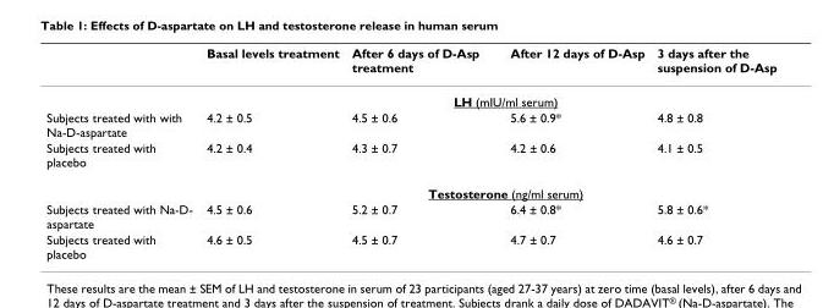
<table><thead><tr><td></td><td>Basal levels treatment</td><td>After 6 days of D-Asp treatment</td><td>After 12 days of D-Asp</td><td>3 days after the suspension of D-Asp</td></tr></thead><tbody><tr><td></td><td colspan="4">LH (mIU/ml serum)</td></tr><tr><td>Subjects treated with with Na-D-aspartate</td><td>4.2 ± 0.5</td><td>4.5 ± 0.6</td><td>5.6 ± 0.9*</td><td>4.8 ± 0.8</td></tr><tr><td rowspan="2">Subjects treated with placebo</td><td>4.2 ± 0.4</td><td>4.3 ± 0.7</td><td>4.2 ± 0.6</td><td>4.1 ± 0.5</td></tr><tr><td colspan="4">Testosterone (ng/ml serum)</td></tr><tr><td>Subjects treated with Na-D- aspartate</td><td>4.5 ± 0.6</td><td>5.2 ± 0.7</td><td>6.4 ± 0.8*</td><td>5.8 ± 0.6*</td></tr><tr><td>Subjects treated with placebo</td><td>4.6 ± 0.5</td><td>4.5 ± 0.7</td><td>4.7 ± 0.7</td><td>4.6 ± 0.7</td></tr></tbody></table>